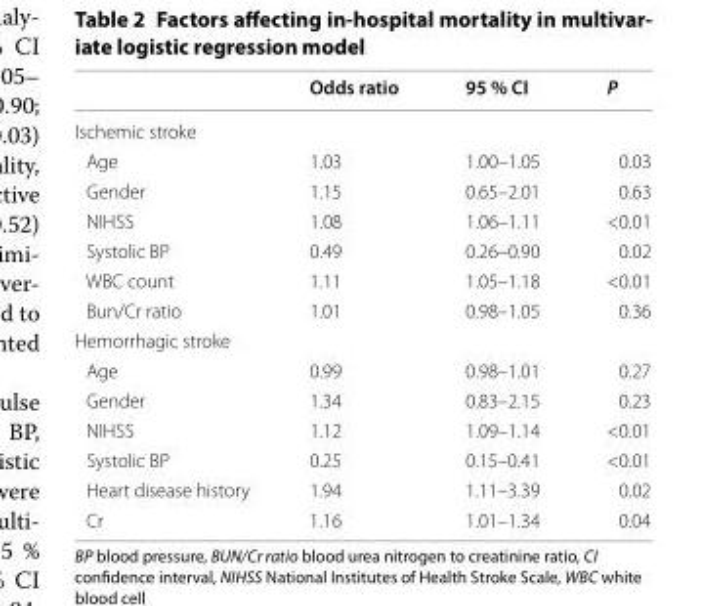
<table><thead><tr><td></td><td>Odds ratio</td><td>95 % CI</td><td>P</td></tr></thead><tbody><tr><td colspan="4">Ischemic stroke</td></tr><tr><td>Age</td><td>1.03</td><td>1.00–1.05</td><td>0.03</td></tr><tr><td>Gender</td><td>1.15</td><td>0.65–2.01</td><td>0.63</td></tr><tr><td>NIHSS</td><td>1.08</td><td>1.06–1.11</td><td>&lt;0.01</td></tr><tr><td>Systolic BP</td><td>0.49</td><td>0.26–0.90</td><td>0.02</td></tr><tr><td>WBC count</td><td>1.11</td><td>1.05–1.18</td><td>&lt;0.01</td></tr><tr><td>Bun/Cr ratio</td><td>1.01</td><td>0.98–1.05</td><td>0.36</td></tr><tr><td colspan="4">Hemorrhagic stroke</td></tr><tr><td>Age</td><td>0.99</td><td>0.98–1.01</td><td>0.27</td></tr><tr><td>Gender</td><td>1.34</td><td>0.83–2.15</td><td>0.23</td></tr><tr><td>NIHSS</td><td>1.12</td><td>1.09–1.14</td><td>&lt;0.01</td></tr><tr><td>Systolic BP</td><td>0.25</td><td>0.15–0.41</td><td>&lt;0.01</td></tr><tr><td>Heart disease history</td><td>1.94</td><td>1.11–3.39</td><td>0.02</td></tr><tr><td>Cr</td><td>1.16</td><td>1.01–1.34</td><td>0.04</td></tr></tbody></table>